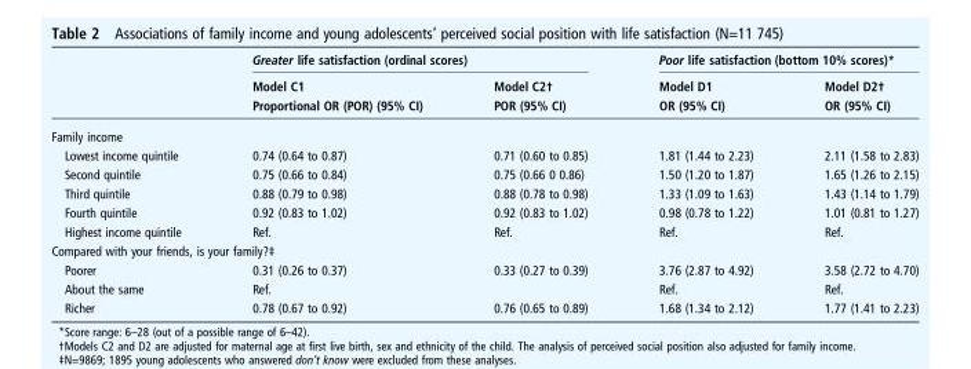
<table><thead><tr><td rowspan="3"></td><td colspan="2">Greater life satisfaction (ordinal scores)</td><td colspan="2">Poor life satisfaction (bottom 10% scores)*</td></tr><tr><td rowspan="2">Model C1 Proportional OR (POR) (95% CI)</td><td rowspan="2">Model C2† POR (95% CI)</td><td rowspan="2">Model D1 OR (95% CI)</td><td rowspan="2">Model D2† OR (95% CI)</td></tr><tr></tr></thead><tbody><tr><td colspan="5">Family income</td></tr><tr><td>Lowest income quintile</td><td>0.74 (0.64 to 0.87)</td><td>0.71 (0.60 to 0.85)</td><td>1.81 (1.44 to 2.23)</td><td>2.11 (1.58 to 2.83)</td></tr><tr><td>Second quintile</td><td>0.75 (0.66 to 0.84)</td><td>0.75 (0.66 0 0.86)</td><td>1.50 (1.20 to 1.87)</td><td>1.65 (1.26 to 2.15)</td></tr><tr><td>Third quintile</td><td>0.88 (0.79 to 0.98)</td><td>0.88 (0.78 to 0.98)</td><td>1.33 (1.09 to 1.63)</td><td>1.43 (1.14 to 1.79)</td></tr><tr><td>Fourth quintile</td><td>0.92 (0.83 to 1.02)</td><td>0.92 (0.83 to 1.02)</td><td>0.98 (0.78 to 1.22)</td><td>1.01 (0.81 to 1.27)</td></tr><tr><td>Highest income quintile</td><td>Ref.</td><td>Ref.</td><td>Ref.</td><td>Ref.</td></tr><tr><td colspan="5">Compared with your friends, is your family?‡</td></tr><tr><td>Poorer</td><td>0.31 (0.26 to 0.37)</td><td>0.33 (0.27 to 0.39)</td><td>3.76 (2.87 to 4.92)</td><td>3.58 (2.72 to 4.70)</td></tr><tr><td>About the same</td><td>Ref.</td><td></td><td>Ref.</td><td>Ref.</td></tr><tr><td>Richer</td><td>0.78 (0.67 to 0.92)</td><td>0.76 (0.65 to 0.89)</td><td>1.68 (1.34 to 2.12)</td><td>1.77 (1.41 to 2.23)</td></tr></tbody></table>